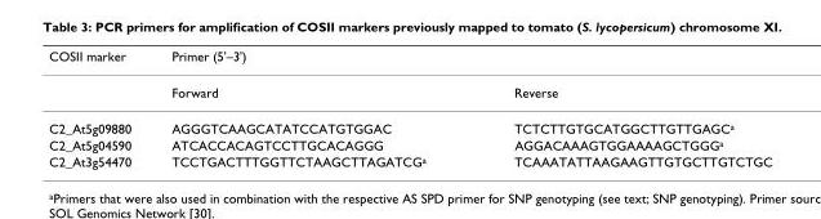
<table><thead><tr><td>COSII marker</td><td>Primer (5&#x27;–3&#x27;)</td><td></td></tr></thead><tbody><tr><td></td><td>Forward</td><td>Reverse</td></tr><tr><td>C2_At5g09880</td><td>AGGGTCAAGCATATCCATGTGGAC</td><td>TCTCTTGTGCATGGCTTGTTGAGC<sup>a</sup></td></tr><tr><td>C2_At5g04590</td><td>ATCACCACAGTCCTTGCACAGGG</td><td>AGGACAAAGTGGAAAAGCTGGG<sup>a</sup></td></tr><tr><td>C2_At3g54470</td><td>TCCTGACTTTGGTTCTAAGCTTAGATCG<sup>a</sup></td><td>TCAAATATTAAGAAGTTGTGCTTGTCTGC</td></tr></tbody></table>